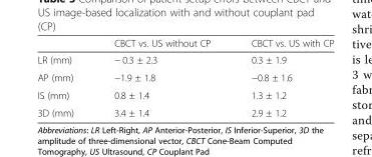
<table><thead><tr><td></td><td>CBCT vs. US without CP</td><td>CBCT vs. US with CP</td></tr></thead><tbody><tr><td>LR (mm)</td><td>− 0.3 ± 2.3</td><td>0.3 ± 1.9</td></tr><tr><td>AP (mm)</td><td>−1.9 ± 1.8</td><td>−0.8 ± 1.6</td></tr><tr><td>IS (mm)</td><td>0.8 ± 1.4</td><td>1.3 ± 1.2</td></tr><tr><td>3D (mm)</td><td>3.4 ± 1.4</td><td>2.9 ± 1.2</td></tr></tbody></table>